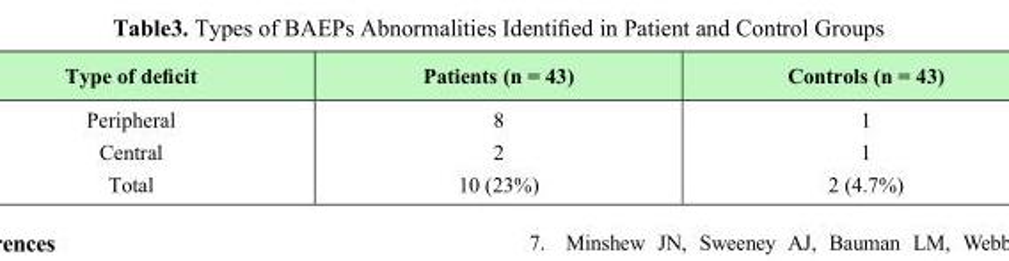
<table><thead><tr><td>Type of deficit</td><td>Patients (n = 43)</td><td>Controls (n = 43)</td></tr></thead><tbody><tr><td>Peripheral</td><td>8</td><td>1</td></tr><tr><td>Central</td><td>2</td><td>1</td></tr><tr><td>Total</td><td>10 (23%)</td><td>2 (4.7%)</td></tr></tbody></table>